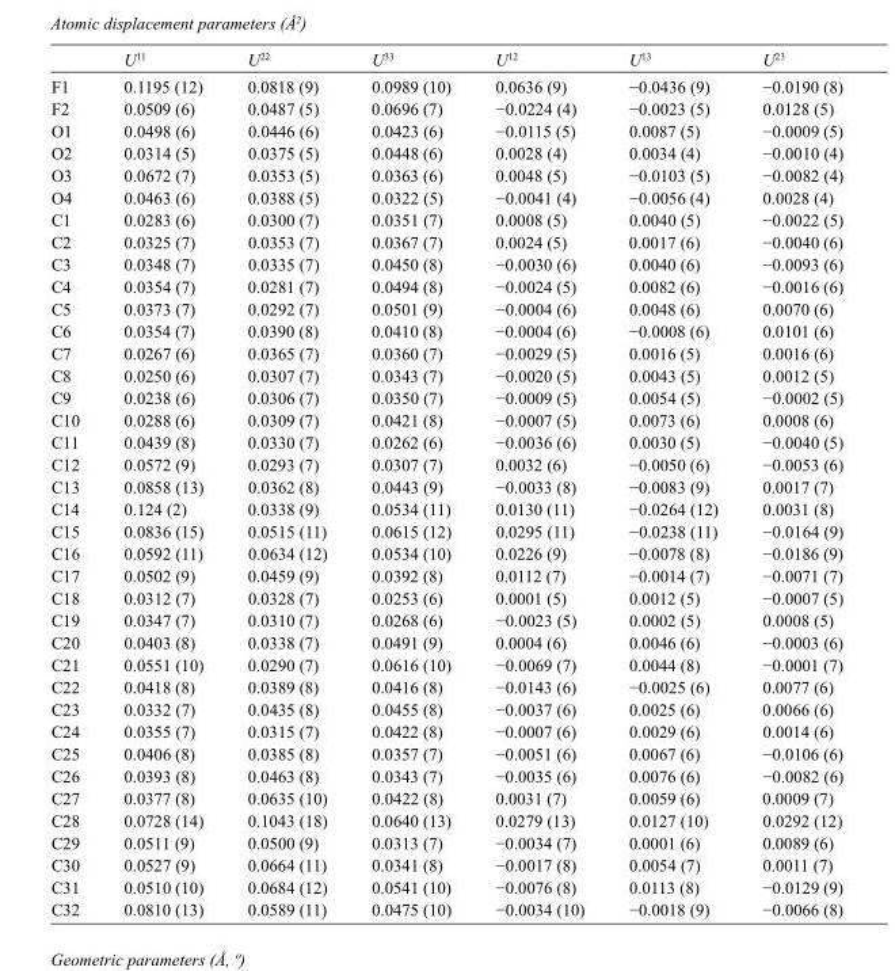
<table><thead><tr><td></td><td>U<sup>11</sup></td><td>U<sup>22</sup></td><td>U<sup>33</sup></td><td>U<sup>12</sup></td><td>U<sup>13</sup></td><td>U<sup>23</sup></td></tr></thead><tbody><tr><td>F1</td><td>0.1195 (12)</td><td>0.0818 (9)</td><td>0.0989 (10)</td><td>0.0636 (9)</td><td>−0.0436 (9)</td><td>−0.0190 (8)</td></tr><tr><td>F2</td><td>0.0509 (6)</td><td>0.0487 (5)</td><td>0.0696 (7)</td><td>−0.0224 (4)</td><td>−0.0023 (5)</td><td>0.0128 (5)</td></tr><tr><td>O1</td><td>0.0498 (6)</td><td>0.0446 (6)</td><td>0.0423 (6)</td><td>−0.0115 (5)</td><td>0.0087 (5)</td><td>−0.0009 (5)</td></tr><tr><td>O2</td><td>0.0314 (5)</td><td>0.0375 (5)</td><td>0.0448 (6)</td><td>0.0028 (4)</td><td>0.0034 (4)</td><td>−0.0010 (4)</td></tr><tr><td>O3</td><td>0.0672 (7)</td><td>0.0353 (5)</td><td>0.0363 (6)</td><td>0.0048 (5)</td><td>−0.0103 (5)</td><td>−0.0082 (4)</td></tr><tr><td>O4</td><td>0.0463 (6)</td><td>0.0388 (5)</td><td>0.0322 (5)</td><td>−0.0041 (4)</td><td>−0.0056 (4)</td><td>0.0028 (4)</td></tr><tr><td>C1</td><td>0.0283 (6)</td><td>0.0300 (7)</td><td>0.0351 (7)</td><td>0.0008 (5)</td><td>0.0040 (5)</td><td>−0.0022 (5)</td></tr><tr><td>C2</td><td>0.0325 (7)</td><td>0.0353 (7)</td><td>0.0367 (7)</td><td>0.0024 (5)</td><td>0.0017 (6)</td><td>−0.0040 (6)</td></tr><tr><td>C3</td><td>0.0348 (7)</td><td>0.0335 (7)</td><td>0.0450 (8)</td><td>−0.0030 (6)</td><td>0.0040 (6)</td><td>−0.0093 (6)</td></tr><tr><td>C4</td><td>0.0354 (7)</td><td>0.0281 (7)</td><td>0.0494 (8)</td><td>−0.0024 (5)</td><td>0.0082 (6)</td><td>−0.0016 (6)</td></tr><tr><td>C5</td><td>0.0373 (7)</td><td>0.0292 (7)</td><td>0.0501 (9)</td><td>−0.0004 (6)</td><td>0.0048 (6)</td><td>0.0070 (6)</td></tr><tr><td>C6</td><td>0.0354 (7)</td><td>0.0390 (8)</td><td>0.0410 (8)</td><td>−0.0004 (6)</td><td>−0.0008 (6)</td><td>0.0101 (6)</td></tr><tr><td>C7</td><td>0.0267 (6)</td><td>0.0365 (7)</td><td>0.0360 (7)</td><td>−0.0029 (5)</td><td>0.0016 (5)</td><td>0.0016 (6)</td></tr><tr><td>C8</td><td>0.0250 (6)</td><td>0.0307 (7)</td><td>0.0343 (7)</td><td>−0.0020 (5)</td><td>0.0043 (5)</td><td>0.0012 (5)</td></tr><tr><td>C9</td><td>0.0238 (6)</td><td>0.0306 (7)</td><td>0.0350 (7)</td><td>−0.0009 (5)</td><td>0.0054 (5)</td><td>−0.0002 (5)</td></tr><tr><td>C10</td><td>0.0288 (6)</td><td>0.0309 (7)</td><td>0.0421 (8)</td><td>−0.0007 (5)</td><td>0.0073 (6)</td><td>0.0008 (6)</td></tr><tr><td>C11</td><td>0.0439 (8)</td><td>0.0330 (7)</td><td>0.0262 (6)</td><td>−0.0036 (6)</td><td>0.0030 (5)</td><td>−0.0040 (5)</td></tr><tr><td>C12</td><td>0.0572 (9)</td><td>0.0293 (7)</td><td>0.0307 (7)</td><td>0.0032 (6)</td><td>−0.0050 (6)</td><td>−0.0053 (6)</td></tr><tr><td>C13</td><td>0.0858 (13)</td><td>0.0362 (8)</td><td>0.0443 (9)</td><td>−0.0033 (8)</td><td>−0.0083 (9)</td><td>0.0017 (7)</td></tr><tr><td>C14</td><td>0.124 (2)</td><td>0.0338 (9)</td><td>0.0534 (11)</td><td>0.0130 (11)</td><td>−0.0264 (12)</td><td>0.0031 (8)</td></tr><tr><td>C15</td><td>0.0836 (15)</td><td>0.0515 (11)</td><td>0.0615 (12)</td><td>0.0295 (11)</td><td>−0.0238 (11)</td><td>−0.0164 (9)</td></tr><tr><td>C16</td><td>0.0592 (11)</td><td>0.0634 (12)</td><td>0.0534 (10)</td><td>0.0226 (9)</td><td>−0.0078 (8)</td><td>−0.0186 (9)</td></tr><tr><td>C17</td><td>0.0502 (9)</td><td>0.0459 (9)</td><td>0.0392 (8)</td><td>0.0112 (7)</td><td>−0.0014 (7)</td><td>−0.0071 (7)</td></tr><tr><td>C18</td><td>0.0312 (7)</td><td>0.0328 (7)</td><td>0.0253 (6)</td><td>0.0001 (5)</td><td>0.0012 (5)</td><td>−0.0007 (5)</td></tr><tr><td>C19</td><td>0.0347 (7)</td><td>0.0310 (7)</td><td>0.0268 (6)</td><td>−0.0023 (5)</td><td>0.0002 (5)</td><td>0.0008 (5)</td></tr><tr><td>C20</td><td>0.0403 (8)</td><td>0.0338 (7)</td><td>0.0491 (9)</td><td>0.0004 (6)</td><td>0.0046 (6)</td><td>−0.0003 (6)</td></tr><tr><td>C21</td><td>0.0551 (10)</td><td>0.0290 (7)</td><td>0.0616 (10)</td><td>−0.0069 (7)</td><td>0.0044 (8)</td><td>−0.0001 (7)</td></tr><tr><td>C22</td><td>0.0418 (8)</td><td>0.0389 (8)</td><td>0.0416 (8)</td><td>−0.0143 (6)</td><td>−0.0025 (6)</td><td>0.0077 (6)</td></tr><tr><td>C23</td><td>0.0332 (7)</td><td>0.0435 (8)</td><td>0.0455 (8)</td><td>−0.0037 (6)</td><td>0.0025 (6)</td><td>0.0066 (6)</td></tr><tr><td>C24</td><td>0.0355 (7)</td><td>0.0315 (7)</td><td>0.0422 (8)</td><td>−0.0007 (6)</td><td>0.0029 (6)</td><td>0.0014 (6)</td></tr><tr><td>C25</td><td>0.0406 (8)</td><td>0.0385 (8)</td><td>0.0357 (7)</td><td>−0.0051 (6)</td><td>0.0067 (6)</td><td>−0.0106 (6)</td></tr><tr><td>C26</td><td>0.0393 (8)</td><td>0.0463 (8)</td><td>0.0343 (7)</td><td>−0.0035 (6)</td><td>0.0076 (6)</td><td>−0.0082 (6)</td></tr><tr><td>C27</td><td>0.0377 (8)</td><td>0.0635 (10)</td><td>0.0422 (8)</td><td>0.0031 (7)</td><td>0.0059 (6)</td><td>0.0009 (7)</td></tr><tr><td>C28</td><td>0.0728 (14)</td><td>0.1043 (18)</td><td>0.0640 (13)</td><td>0.0279 (13)</td><td>0.0127 (10)</td><td>0.0292 (12)</td></tr><tr><td>C29</td><td>0.0511 (9)</td><td>0.0500 (9)</td><td>0.0313 (7)</td><td>−0.0034 (7)</td><td>0.0001 (6)</td><td>0.0089 (6)</td></tr><tr><td>C30</td><td>0.0527 (9)</td><td>0.0664 (11)</td><td>0.0341 (8)</td><td>−0.0017 (8)</td><td>0.0054 (7)</td><td>0.0011 (7)</td></tr><tr><td>C31</td><td>0.0510 (10)</td><td>0.0684 (12)</td><td>0.0541 (10)</td><td>−0.0076 (8)</td><td>0.0113 (8)</td><td>−0.0129 (9)</td></tr><tr><td>C32</td><td>0.0810 (13)</td><td>0.0589 (11)</td><td>0.0475 (10)</td><td>−0.0034 (10)</td><td>−0.0018 (9)</td><td>−0.0066 (8)</td></tr></tbody></table>